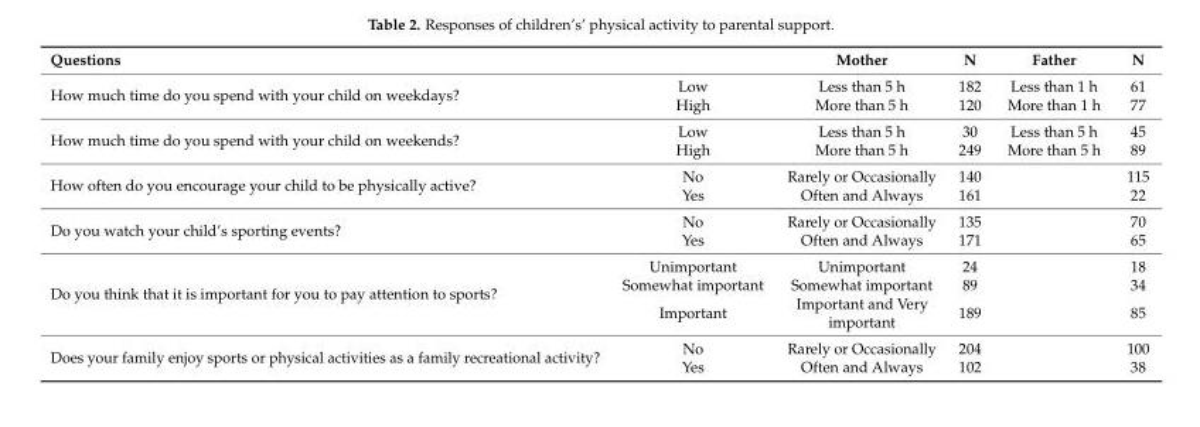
<table><thead><tr><td>Questions</td><td></td><td>Mother</td><td>N</td><td>Father</td><td>N</td></tr></thead><tbody><tr><td rowspan="2">How much time do you spend with your child on weekdays?</td><td>Low</td><td>Less than 5 h</td><td>182</td><td>Less than 1 h</td><td>61</td></tr><tr><td>High</td><td>More than 5 h</td><td>120</td><td>More than 1 h</td><td>77</td></tr><tr><td rowspan="2">How much time do you spend with your child on weekends?</td><td>Low</td><td>Less than 5 h</td><td>30</td><td>Less than 5 h</td><td>45</td></tr><tr><td>High</td><td>More than 5 h</td><td>249</td><td>More than 5 h</td><td>89</td></tr><tr><td rowspan="2">How often do you encourage your child to be physically active?</td><td>No</td><td>Rarely or Occasionally</td><td>140</td><td></td><td>115</td></tr><tr><td>Yes</td><td>Often and Always</td><td>161</td><td></td><td>22</td></tr><tr><td rowspan="2">Do you watch your child’s sporting events?</td><td>No</td><td>Rarely or Occasionally</td><td>135</td><td></td><td>70</td></tr><tr><td>Yes</td><td>Often and Always</td><td>171</td><td></td><td>65</td></tr><tr><td rowspan="3">Do you think that it is important for you to pay attention to sports?</td><td>Unimportant</td><td>Unimportant</td><td>24</td><td></td><td>18</td></tr><tr><td>Somewhat important</td><td>Somewhat important</td><td>89</td><td></td><td>34</td></tr><tr><td>Important</td><td>Important and Very important</td><td>189</td><td></td><td>85</td></tr><tr><td rowspan="2">Does your family enjoy sports or physical activities as a family recreational activity?</td><td>No</td><td>Rarely or Occasionally</td><td>204</td><td></td><td>100</td></tr><tr><td>Yes</td><td>Often and Always</td><td>102</td><td></td><td>38</td></tr></tbody></table>